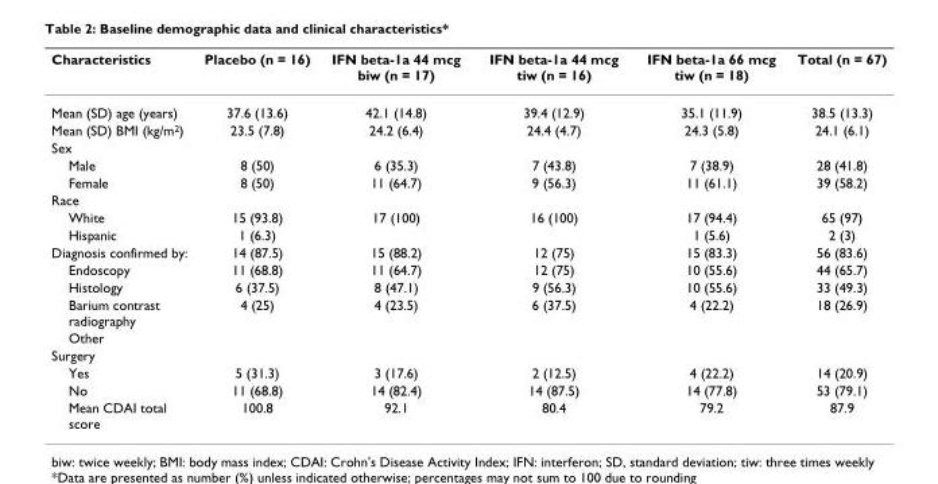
<table><thead><tr><td>Characteristics</td><td>Placebo (n = 16)</td><td>IFN beta-1a 44 mcg biw (n = 17)</td><td>IFN beta-1a 44 mcg tiw (n = 16)</td><td>IFN beta-1a 66 mcg tiw (n = 18)</td><td>Total (n = 67)</td></tr></thead><tbody><tr><td>Mean (SD) age (years)</td><td>37.6 (13.6)</td><td>42.1 (14.8)</td><td>39.4 (12.9)</td><td>35.1 (11.9)</td><td>38.5 (13.3)</td></tr><tr><td>Mean (SD) BMI (kg/m<sup>2</sup>)</td><td>23.5 (7.8)</td><td>24.2 (6.4)</td><td>24.4 (4.7)</td><td>24.3 (5.8)</td><td>24.1 (6.1)</td></tr><tr><td colspan="6">Sex</td></tr><tr><td>Male</td><td>8 (50)</td><td>6 (35.3)</td><td>7 (43.8)</td><td>7 (38.9)</td><td>28 (41.8)</td></tr><tr><td>Female</td><td>8 (50)</td><td>11 (64.7)</td><td>9 (56.3)</td><td>11 (61.1)</td><td>39 (58.2)</td></tr><tr><td colspan="6">Race</td></tr><tr><td>White</td><td>15 (93.8)</td><td>17 (100)</td><td>16 (100)</td><td>17 (94.4)</td><td>65 (97)</td></tr><tr><td>Hispanic</td><td>1 (6.3)</td><td></td><td></td><td>1 (5.6)</td><td>2 (3)</td></tr><tr><td>Diagnosis confirmed by:</td><td>14 (87.5)</td><td>15 (88.2)</td><td>12 (75)</td><td>15 (83.3)</td><td>56 (83.6)</td></tr><tr><td>Endoscopy</td><td>11 (68.8)</td><td>11 (64.7)</td><td>12 (75)</td><td>10 (55.6)</td><td>44 (65.7)</td></tr><tr><td>Histology</td><td>6 (37.5)</td><td>8 (47.1)</td><td>9 (56.3)</td><td>10 (55.6)</td><td>33 (49.3)</td></tr><tr><td>Barium contrast radiography</td><td>4 (25)</td><td>4 (23.5)</td><td>6 (37.5)</td><td>4 (22.2)</td><td>18 (26.9)</td></tr><tr><td colspan="6">Other</td></tr><tr><td colspan="6">Surgery</td></tr><tr><td>Yes</td><td>5 (31.3)</td><td>3 (17.6)</td><td>2 (12.5)</td><td>4 (22.2)</td><td>14 (20.9)</td></tr><tr><td>No</td><td>11 (68.8)</td><td>14 (82.4)</td><td>14 (87.5)</td><td>14 (77.8)</td><td>53 (79.1)</td></tr><tr><td>Mean CDAI total score</td><td>100.8</td><td>92.1</td><td>80.4</td><td>79.2</td><td>87.9</td></tr></tbody></table>